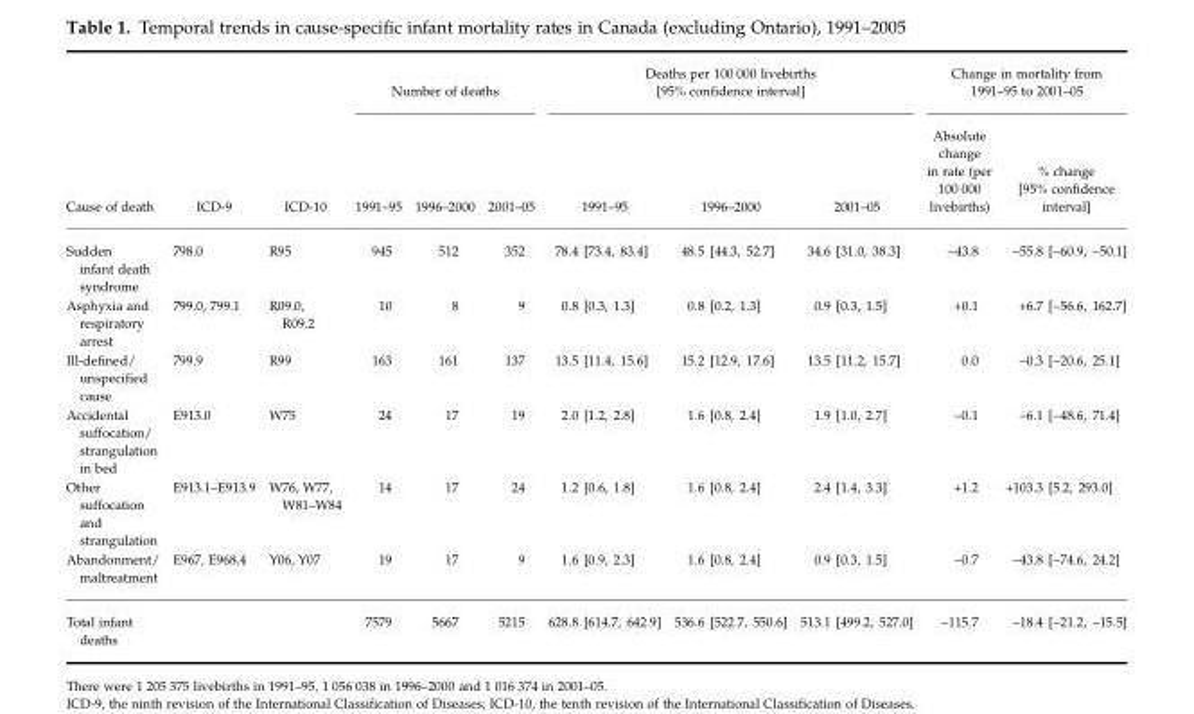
<table><thead><tr><td rowspan="2">Cause of death</td><td rowspan="2">ICD-9</td><td rowspan="2">ICD-10</td><td colspan="3">Number of deaths</td><td colspan="3">Deaths per 100 000 livebirths [95% confidence interval]</td><td colspan="2">Change in mortality from 1991–95 to 2001–05</td></tr><tr><td>1991–95</td><td>1996–2000</td><td>2001–05</td><td>1991–95</td><td>1996–2000</td><td>2001–05</td><td>Absolute change in rate (per 100 000 livebirths)</td><td>% change [95% confidence interval]</td></tr></thead><tbody><tr><td>Sudden infant death syndrome</td><td>798.0</td><td>R95</td><td>945</td><td>512</td><td>352</td><td>78.4 [73.4, 83.4]</td><td>48.5 [44.3, 52.7]</td><td>34.6 [31.0, 38.3]</td><td>-43.8</td><td>-55.8 [-60.9, -50.1]</td></tr><tr><td>Asphyxia and respiratory arrest</td><td>799.0, 799.1</td><td>R09.0, R09.2</td><td>10</td><td>8</td><td>9</td><td>0.8 [0.3, 1.3]</td><td>0.8 [0.2, 1.3]</td><td>0.9 [0.3, 1.5]</td><td>+0.1</td><td>+6.7 [-56.6, 162.7]</td></tr><tr><td>Ill-defined/ unspecified cause</td><td>799.9</td><td>R99</td><td>163</td><td>161</td><td>137</td><td>13.5 [11.4, 15.6]</td><td>15.2 [12.9, 17.6]</td><td>13.5 [11.2, 15.7]</td><td>0.0</td><td>-0.3 [-20.6, 25.1]</td></tr><tr><td>Accidental suffocation/ strangulation in bed</td><td>E913.0</td><td>W75</td><td>24</td><td>17</td><td>19</td><td>2.0 [1.2, 2.8]</td><td>1.6 [0.8, 2.4]</td><td>1.9 [1.0, 2.7]</td><td>-0.1</td><td>-6.1 [-48.6, 71.4]</td></tr><tr><td>Other suffocation and strangulation</td><td>E913.1–E913.9</td><td>W76, W77, W81–W84</td><td>14</td><td>17</td><td>24</td><td>1.2 [0.6, 1.8]</td><td>1.6 [0.8, 2.4]</td><td>2.4 [1.4, 3.3]</td><td>+1.2</td><td>+103.3 [5.2, 293.0]</td></tr><tr><td>Abandonment/ maltreatment</td><td>E967, E968.4</td><td>Y06, Y07</td><td>19</td><td>17</td><td>9</td><td>1.6 [0.9, 2.3]</td><td>1.6 [0.8, 2.4]</td><td>0.9 [0.3, 1.5]</td><td>-0.7</td><td>-43.8 [-74.6, 24.2]</td></tr><tr><td>Total infant deaths</td><td></td><td></td><td>7579</td><td>5667</td><td>5215</td><td>628.8 [614.7, 642.9]</td><td>536.6 [522.7, 550.6]</td><td>513.1 [499.2, 527.0]</td><td>-115.7</td><td>-18.4 [-21.2, -15.5]</td></tr></tbody></table>